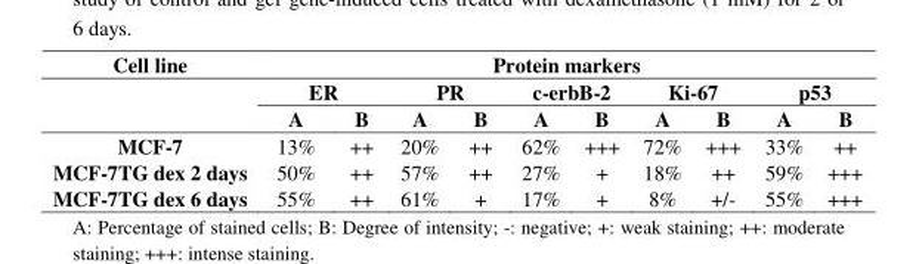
<table><thead><tr><td rowspan="3">Cell line</td><td colspan="10">Protein markers</td></tr><tr><td colspan="2">ER</td><td colspan="2">PR</td><td colspan="2">c-erbB-2</td><td colspan="2">Ki-67</td><td colspan="2">p53</td></tr><tr><td>A</td><td>B</td><td>A</td><td>B</td><td>A</td><td>B</td><td>A</td><td>B</td><td>A</td><td>B</td></tr></thead><tbody><tr><td>MCF-7</td><td>13%</td><td>++</td><td>20%</td><td>++</td><td>62%</td><td>+++</td><td>72%</td><td>+++</td><td>33%</td><td>++</td></tr><tr><td>MCF-7TG dex 2 days</td><td>50%</td><td>++</td><td>57%</td><td>++</td><td>27%</td><td>+</td><td>18%</td><td>++</td><td>59%</td><td>+++</td></tr><tr><td>MCF-7TG dex 6 days</td><td>55%</td><td>++</td><td>61%</td><td>+</td><td>17%</td><td>+</td><td>8%</td><td>+/-</td><td>55%</td><td>+++</td></tr></tbody></table>